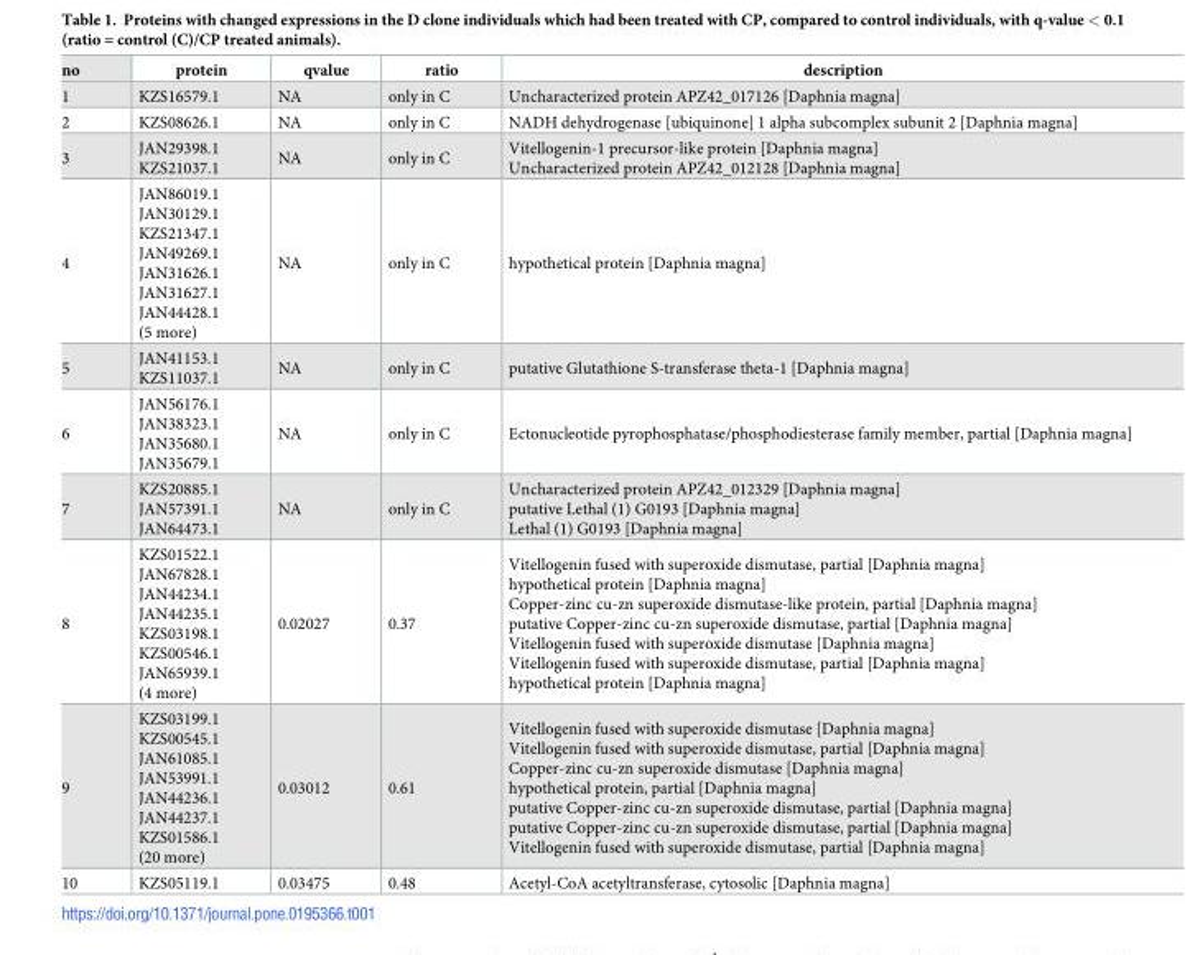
<table><thead><tr><td>no</td><td>protein</td><td>qvalue</td><td>ratio</td><td>description</td></tr></thead><tbody><tr><td>1</td><td>KZS16579.1</td><td>NA</td><td>only in C</td><td>Uncharacterized protein APZ42_017126 [Daphnia magna]</td></tr><tr><td>2</td><td>KZS08626.1</td><td>NA</td><td>only in C</td><td>NADH dehydrogenase [ubiquinone] 1 alpha subcomplex subunit 2 [Daphnia magna]</td></tr><tr><td>3</td><td>JAN29398.1 KZS21037.1</td><td>NA</td><td>only in C</td><td>Vitellogenin-1 precursor-like protein [Daphnia magna] Uncharacterized protein APZ42_012128 [Daphnia magna]</td></tr><tr><td>4</td><td>JAN86019.1 JAN30129.1 KZS21347.1 JAN49269.1 JAN31626.1 JAN31627.1 JAN44428.1 (5 more)</td><td>NA</td><td>only in C</td><td>hypothetical protein [Daphnia magna]</td></tr><tr><td>5</td><td>JAN41153.1 KZS11037.1</td><td>NA</td><td>only in C</td><td>putative Glutathione S-transferase theta-1 [Daphnia magna]</td></tr><tr><td>6</td><td>JAN56176.1 JAN38323.1 JAN35680.1 JAN35679.1</td><td>NA</td><td>only in C</td><td>Ectonucleotide pyrophosphatase/phosphodiesterase family member, partial [Daphnia magna]</td></tr><tr><td>7</td><td>KZS20885.1 JAN57391.1 JAN64473.1</td><td>NA</td><td>only in C</td><td>Uncharacterized protein APZ42_012329 [Daphnia magna] putative Lethal (1) G0193 [Daphnia magna] Lethal (1) G0193 [Daphnia magna]</td></tr><tr><td>8</td><td>KZS01522.1 JAN67828.1 JAN44234.1 JAN44235.1 KZS03198.1 KZS00546.1 JAN65939.1 (4 more)</td><td>0.02027</td><td>0.37</td><td>Vitellogenin fused with superoxide dismutase, partial [Daphnia magna] hypothetical protein [Daphnia magna] Copper-zinc cu-zn superoxide dismutase-like protein, partial [Daphnia magna] putative Copper-zinc cu-zn superoxide dismutase, partial [Daphnia magna] Vitellogenin fused with superoxide dismutase [Daphnia magna] Vitellogenin fused with superoxide dismutase, partial [Daphnia magna] hypothetical protein [Daphnia magna]</td></tr><tr><td>9</td><td>KZS03199.1 KZS00545.1 JAN61085.1 JAN53991.1 JAN44236.1 JAN44237.1 KZS01586.1 (20 more)</td><td>0.03012</td><td>0.61</td><td>Vitellogenin fused with superoxide dismutase [Daphnia magna] Vitellogenin fused with superoxide dismutase, partial [Daphnia magna] Copper-zinc cu-zn superoxide dismutase [Daphnia magna] hypothetical protein, partial [Daphnia magna] putative Copper-zinc cu-zn superoxide dismutase, partial [Daphnia magna] putative Copper-zinc cu-zn superoxide dismutase, partial [Daphnia magna] Vitellogenin fused with superoxide dismutase, partial [Daphnia magna]</td></tr><tr><td>10</td><td>KZS05119.1</td><td>0.03475</td><td>0.48</td><td>Acetyl-CoA acetyltransferase, cytosolic [Daphnia magna]</td></tr></tbody></table>